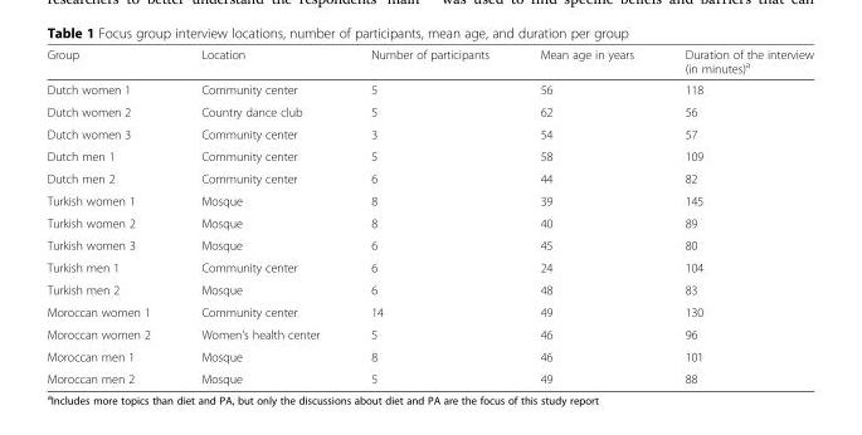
<table><thead><tr><td>Group</td><td>Location</td><td>Number of participants</td><td>Mean age in years</td><td>Duration of the interview (in minutes)<sup>a</sup></td></tr></thead><tbody><tr><td>Dutch women 1</td><td>Community center</td><td>5</td><td>56</td><td>118</td></tr><tr><td>Dutch women 2</td><td>Country dance club</td><td>5</td><td>62</td><td>56</td></tr><tr><td>Dutch women 3</td><td>Community center</td><td>3</td><td>54</td><td>57</td></tr><tr><td>Dutch men 1</td><td>Community center</td><td>5</td><td>58</td><td>109</td></tr><tr><td>Dutch men 2</td><td>Community center</td><td>6</td><td>44</td><td>82</td></tr><tr><td>Turkish women 1</td><td>Mosque</td><td>8</td><td>39</td><td>145</td></tr><tr><td>Turkish women 2</td><td>Mosque</td><td>8</td><td>40</td><td>89</td></tr><tr><td>Turkish women 3</td><td>Mosque</td><td>6</td><td>45</td><td>80</td></tr><tr><td>Turkish men 1</td><td>Community center</td><td>6</td><td>24</td><td>104</td></tr><tr><td>Turkish men 2</td><td>Mosque</td><td>6</td><td>48</td><td>83</td></tr><tr><td>Moroccan women 1</td><td>Community center</td><td>14</td><td>49</td><td>130</td></tr><tr><td>Moroccan women 2</td><td>Women’s health center</td><td>5</td><td>46</td><td>96</td></tr><tr><td>Moroccan men 1</td><td>Mosque</td><td>8</td><td>46</td><td>101</td></tr><tr><td>Moroccan men 2</td><td>Mosque</td><td>5</td><td>49</td><td>88</td></tr></tbody></table>